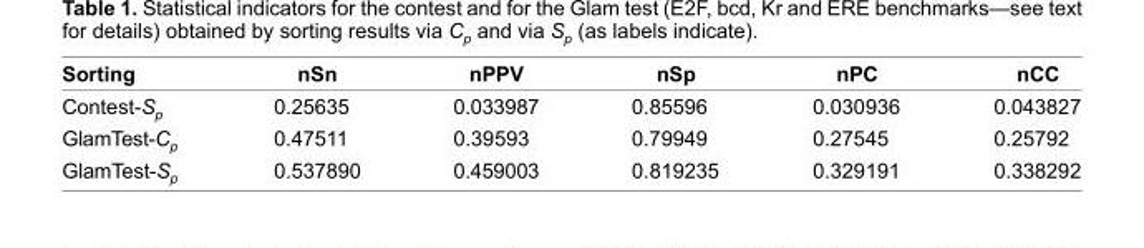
<table><thead><tr><td>Sorting</td><td>nSn</td><td>nPPV</td><td>nSp</td><td>nPC</td><td>nCC</td></tr></thead><tbody><tr><td>Contest-S<sub>p</sub></td><td>0.25635</td><td>0.033987</td><td>0.85596</td><td>0.030936</td><td>0.043827</td></tr><tr><td>GlamTest-C<sub>p</sub></td><td>0.47511</td><td>0.39593</td><td>0.79949</td><td>0.27545</td><td>0.25792</td></tr><tr><td>GlamTest-S<sub>p</sub></td><td>0.537890</td><td>0.459003</td><td>0.819235</td><td>0.329191</td><td>0.338292</td></tr></tbody></table>